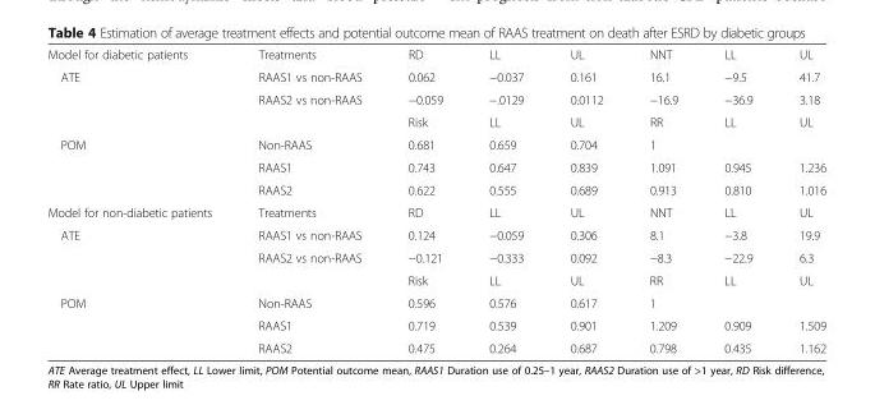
<table><tbody><tr><td>Model for diabetic patients</td><td>Treatments</td><td>RD</td><td>LL</td><td>UL</td><td>NNT</td><td>LL</td><td>UL</td></tr><tr><td rowspan="3">ATE</td><td>RAAS1 vs non-RAAS</td><td>0.062</td><td>−0.037</td><td>0.161</td><td>16.1</td><td>−9.5</td><td>41.7</td></tr><tr><td>RAAS2 vs non-RAAS</td><td>−0.059</td><td>−.0129</td><td>0.0112</td><td>−16.9</td><td>−36.9</td><td>3.18</td></tr><tr><td></td><td>Risk</td><td>LL</td><td>UL</td><td>RR</td><td>LL</td><td>UL</td></tr><tr><td rowspan="3">POM</td><td>Non-RAAS</td><td>0.681</td><td>0.659</td><td>0.704</td><td>1</td><td></td><td></td></tr><tr><td>RAAS1</td><td>0.743</td><td>0.647</td><td>0.839</td><td>1.091</td><td>0.945</td><td>1.236</td></tr><tr><td>RAAS2</td><td>0.622</td><td>0.555</td><td>0.689</td><td>0.913</td><td>0.810</td><td>1.016</td></tr><tr><td>Model for non-diabetic patients</td><td>Treatments</td><td>RD</td><td>LL</td><td>UL</td><td>NNT</td><td>LL</td><td>UL</td></tr><tr><td rowspan="3">ATE</td><td>RAAS1 vs non-RAAS</td><td>0.124</td><td>−0.059</td><td>0.306</td><td>8.1</td><td>−3.8</td><td>19.9</td></tr><tr><td>RAAS2 vs non-RAAS</td><td>−0.121</td><td>−0.333</td><td>0.092</td><td>−8.3</td><td>−22.9</td><td>6.3</td></tr><tr><td></td><td>Risk</td><td>LL</td><td>UL</td><td>RR</td><td>LL</td><td>UL</td></tr><tr><td rowspan="3">POM</td><td>Non-RAAS</td><td>0.596</td><td>0.576</td><td>0.617</td><td>1</td><td></td><td></td></tr><tr><td>RAAS1</td><td>0.719</td><td>0.539</td><td>0.901</td><td>1.209</td><td>0.909</td><td>1.509</td></tr><tr><td>RAAS2</td><td>0.475</td><td>0.264</td><td>0.687</td><td>0.798</td><td>0.435</td><td>1.162</td></tr></tbody></table>